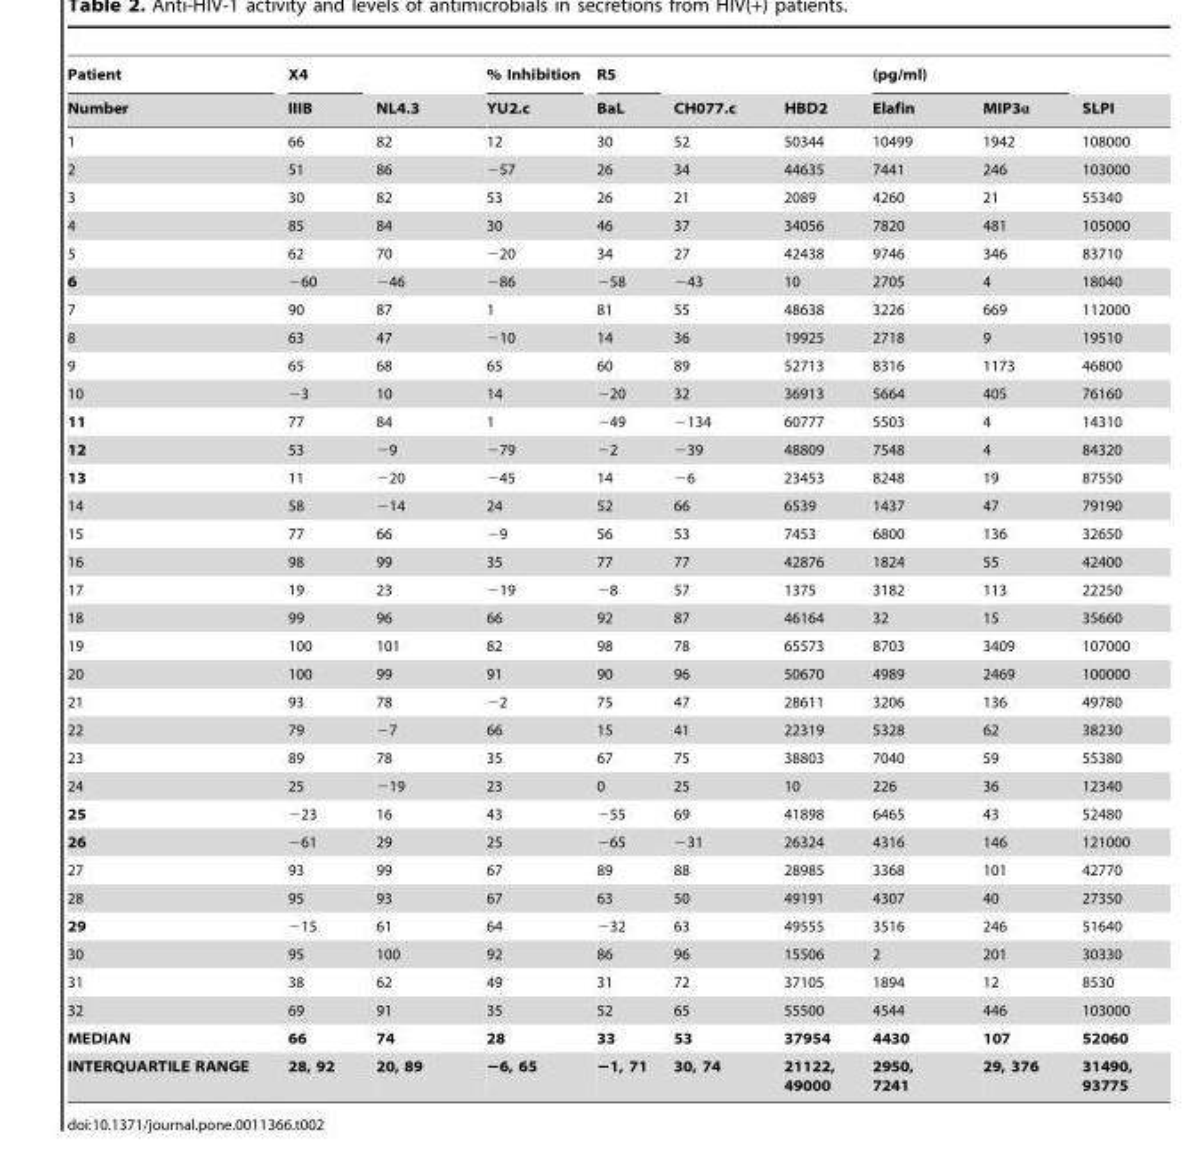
<table><thead><tr><td rowspan="2">Patient Number</td><td rowspan="2">X4 IIIB</td><td rowspan="2">NL4.3</td><td rowspan="2">% Inhibition YU2.c</td><td rowspan="2">R5 BaL</td><td rowspan="2">CH077.c</td><td rowspan="2">HBD2</td><td colspan="2">(pg/ml)</td><td rowspan="2">SLPI</td></tr><tr><td>Elafin</td><td>MIP3α</td></tr></thead><tbody><tr><td>1</td><td>66</td><td>82</td><td>12</td><td>30</td><td>52</td><td>50344</td><td>10499</td><td>1942</td><td>108000</td></tr><tr><td>2</td><td>51</td><td>86</td><td>−57</td><td>26</td><td>34</td><td>44635</td><td>7441</td><td>246</td><td>103000</td></tr><tr><td>3</td><td>30</td><td>82</td><td>53</td><td>26</td><td>21</td><td>2089</td><td>4260</td><td>21</td><td>55340</td></tr><tr><td>4</td><td>85</td><td>84</td><td>30</td><td>46</td><td>37</td><td>34056</td><td>7820</td><td>481</td><td>105000</td></tr><tr><td>5</td><td>62</td><td>70</td><td>−20</td><td>34</td><td>27</td><td>42438</td><td>9746</td><td>346</td><td>83710</td></tr><tr><td>6</td><td>−60</td><td>−46</td><td>−86</td><td>−58</td><td>−43</td><td>10</td><td>2705</td><td>4</td><td>18040</td></tr><tr><td>7</td><td>90</td><td>87</td><td>1</td><td>81</td><td>55</td><td>48638</td><td>3226</td><td>669</td><td>112000</td></tr><tr><td>8</td><td>63</td><td>47</td><td>−10</td><td>14</td><td>36</td><td>19925</td><td>2718</td><td>9</td><td>19510</td></tr><tr><td>9</td><td>65</td><td>68</td><td>65</td><td>60</td><td>89</td><td>52713</td><td>8316</td><td>1173</td><td>46800</td></tr><tr><td>10</td><td>−3</td><td>10</td><td>14</td><td>−20</td><td>32</td><td>36913</td><td>5664</td><td>405</td><td>76160</td></tr><tr><td>11</td><td>77</td><td>84</td><td>1</td><td>−49</td><td>−134</td><td>60777</td><td>5503</td><td>4</td><td>14310</td></tr><tr><td>12</td><td>53</td><td>−9</td><td>−79</td><td>−2</td><td>−39</td><td>48809</td><td>7548</td><td>4</td><td>84320</td></tr><tr><td>13</td><td>11</td><td>−20</td><td>−45</td><td>14</td><td>−6</td><td>23453</td><td>8248</td><td>19</td><td>87550</td></tr><tr><td>14</td><td>58</td><td>−14</td><td>24</td><td>52</td><td>66</td><td>6539</td><td>1437</td><td>47</td><td>79190</td></tr><tr><td>15</td><td>77</td><td>66</td><td>−9</td><td>56</td><td>53</td><td>7453</td><td>6800</td><td>136</td><td>32650</td></tr><tr><td>16</td><td>98</td><td>99</td><td>35</td><td>77</td><td>77</td><td>42876</td><td>1824</td><td>55</td><td>42400</td></tr><tr><td>17</td><td>19</td><td>23</td><td>−19</td><td>−8</td><td>57</td><td>1375</td><td>3182</td><td>113</td><td>22250</td></tr><tr><td>18</td><td>99</td><td>96</td><td>66</td><td>92</td><td>87</td><td>46164</td><td>32</td><td>15</td><td>35660</td></tr><tr><td>19</td><td>100</td><td>101</td><td>82</td><td>98</td><td>78</td><td>65573</td><td>8703</td><td>3409</td><td>107000</td></tr><tr><td>20</td><td>100</td><td>99</td><td>91</td><td>90</td><td>96</td><td>50670</td><td>4989</td><td>2469</td><td>100000</td></tr><tr><td>21</td><td>93</td><td>78</td><td>−2</td><td>75</td><td>47</td><td>28611</td><td>3206</td><td>136</td><td>49780</td></tr><tr><td>22</td><td>79</td><td>−7</td><td>66</td><td>15</td><td>41</td><td>22319</td><td>5328</td><td>62</td><td>38230</td></tr><tr><td>23</td><td>89</td><td>78</td><td>35</td><td>67</td><td>75</td><td>38803</td><td>7040</td><td>59</td><td>55380</td></tr><tr><td>24</td><td>25</td><td>−19</td><td>23</td><td>0</td><td>25</td><td>10</td><td>226</td><td>36</td><td>12340</td></tr><tr><td>25</td><td>−23</td><td>16</td><td>43</td><td>−55</td><td>69</td><td>41898</td><td>6465</td><td>43</td><td>52480</td></tr><tr><td>26</td><td>−61</td><td>29</td><td>25</td><td>−65</td><td>−31</td><td>26324</td><td>4316</td><td>146</td><td>121000</td></tr><tr><td>27</td><td>93</td><td>99</td><td>67</td><td>89</td><td>88</td><td>28985</td><td>3368</td><td>101</td><td>42770</td></tr><tr><td>28</td><td>95</td><td>93</td><td>67</td><td>63</td><td>50</td><td>49191</td><td>4307</td><td>40</td><td>27350</td></tr><tr><td>29</td><td>−15</td><td>61</td><td>64</td><td>−32</td><td>63</td><td>49555</td><td>3516</td><td>246</td><td>51640</td></tr><tr><td>30</td><td>95</td><td>100</td><td>92</td><td>86</td><td>96</td><td>15506</td><td>2</td><td>201</td><td>30330</td></tr><tr><td>31</td><td>38</td><td>62</td><td>49</td><td>31</td><td>72</td><td>37105</td><td>1894</td><td>12</td><td>8530</td></tr><tr><td>32</td><td>69</td><td>91</td><td>35</td><td>52</td><td>65</td><td>55500</td><td>4544</td><td>446</td><td>103000</td></tr><tr><td>MEDIAN</td><td>66</td><td>74</td><td>28</td><td>33</td><td>53</td><td>37954</td><td>4430</td><td>107</td><td>52060</td></tr><tr><td>INTERQUARTILE RANGE</td><td>28, 92</td><td>20, 89</td><td>−6, 65</td><td>−1, 71</td><td>30, 74</td><td>21122, 49000</td><td>2950, 7241</td><td>29, 376</td><td>31490, 93775</td></tr></tbody></table>